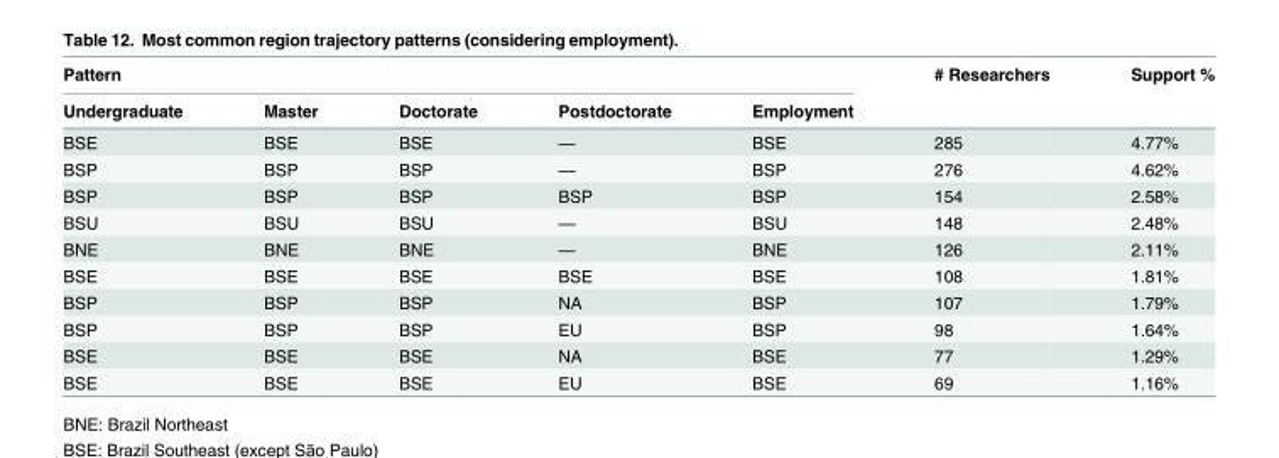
<table><thead><tr><td colspan="5">Pattern</td><td rowspan="2"># Researchers</td><td rowspan="2">Support %</td></tr><tr><td>Undergraduate</td><td>Master</td><td>Doctorate</td><td>Postdoctorate</td><td>Employment</td></tr></thead><tbody><tr><td>BSE</td><td>BSE</td><td>BSE</td><td>—</td><td>BSE</td><td>285</td><td>4.77%</td></tr><tr><td>BSP</td><td>BSP</td><td>BSP</td><td>—</td><td>BSP</td><td>276</td><td>4.62%</td></tr><tr><td>BSP</td><td>BSP</td><td>BSP</td><td>BSP</td><td>BSP</td><td>154</td><td>2.58%</td></tr><tr><td>BSU</td><td>BSU</td><td>BSU</td><td>—</td><td>BSU</td><td>148</td><td>2.48%</td></tr><tr><td>BNE</td><td>BNE</td><td>BNE</td><td>—</td><td>BNE</td><td>126</td><td>2.11%</td></tr><tr><td>BSE</td><td>BSE</td><td>BSE</td><td>BSE</td><td>BSE</td><td>108</td><td>1.81%</td></tr><tr><td>BSP</td><td>BSP</td><td>BSP</td><td>NA</td><td>BSP</td><td>107</td><td>1.79%</td></tr><tr><td>BSP</td><td>BSP</td><td>BSP</td><td>EU</td><td>BSP</td><td>98</td><td>1.64%</td></tr><tr><td>BSE</td><td>BSE</td><td>BSE</td><td>NA</td><td>BSE</td><td>77</td><td>1.29%</td></tr><tr><td>BSE</td><td>BSE</td><td>BSE</td><td>EU</td><td>BSE</td><td>69</td><td>1.16%</td></tr></tbody></table>